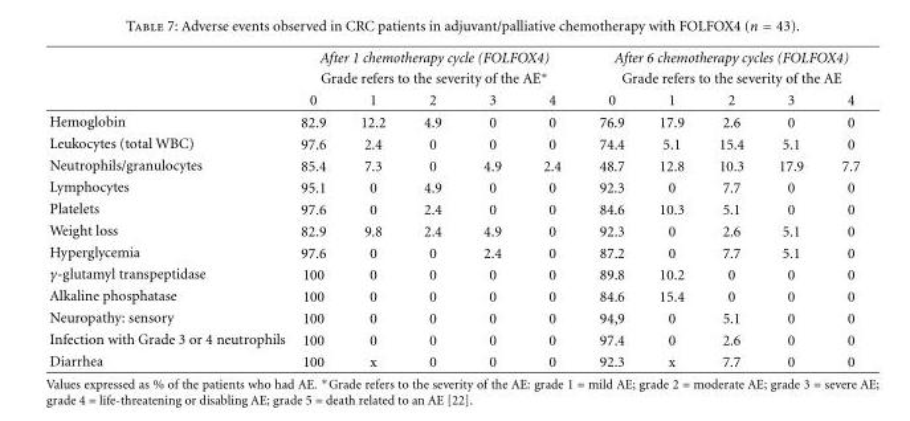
<table><thead><tr><td rowspan="3"></td><td rowspan="2" colspan="5">After 1 chemotherapy cycle (FOLFOX4) Grade refers to the severity of the AE∗</td><td rowspan="2" colspan="5">After 6 chemotherapy cycles (FOLFOX4) Grade refers to the severity of the AE</td></tr><tr></tr><tr><td>0</td><td>1</td><td>2</td><td>3</td><td>4</td><td>0</td><td>1</td><td>2</td><td>3</td><td>4</td></tr></thead><tbody><tr><td>Hemoglobin</td><td>82.9</td><td>12.2</td><td>4.9</td><td>0</td><td>0</td><td>76.9</td><td>17.9</td><td>2.6</td><td>0</td><td>0</td></tr><tr><td>Leukocytes (total WBC)</td><td>97.6</td><td>2.4</td><td>0</td><td>0</td><td>0</td><td>74.4</td><td>5.1</td><td>15.4</td><td>5.1</td><td>0</td></tr><tr><td>Neutrophils/granulocytes</td><td>85.4</td><td>7.3</td><td>0</td><td>4.9</td><td>2.4</td><td>48.7</td><td>12.8</td><td>10.3</td><td>17.9</td><td>7.7</td></tr><tr><td>Lymphocytes</td><td>95.1</td><td>0</td><td>4.9</td><td>0</td><td>0</td><td>92.3</td><td>0</td><td>7.7</td><td>0</td><td>0</td></tr><tr><td>Platelets</td><td>97.6</td><td>0</td><td>2.4</td><td>0</td><td>0</td><td>84.6</td><td>10.3</td><td>5.1</td><td>0</td><td>0</td></tr><tr><td>Weight loss</td><td>82.9</td><td>9.8</td><td>2.4</td><td>4.9</td><td>0</td><td>92.3</td><td>0</td><td>2.6</td><td>5.1</td><td>0</td></tr><tr><td>Hyperglycemia</td><td>97.6</td><td>0</td><td>0</td><td>2.4</td><td>0</td><td>87.2</td><td>0</td><td>7.7</td><td>5.1</td><td>0</td></tr><tr><td>γ-glutamyl transpeptidase</td><td>100</td><td>0</td><td>0</td><td>0</td><td>0</td><td>89.8</td><td>10.2</td><td>0</td><td>0</td><td>0</td></tr><tr><td>Alkaline phosphatase</td><td>100</td><td>0</td><td>0</td><td>0</td><td>0</td><td>84.6</td><td>15.4</td><td>0</td><td>0</td><td>0</td></tr><tr><td>Neuropathy: sensory</td><td>100</td><td>0</td><td>0</td><td>0</td><td>0</td><td>94,9</td><td>0</td><td>5.1</td><td>0</td><td>0</td></tr><tr><td>Infection with Grade 3 or 4 neutrophils</td><td>100</td><td>0</td><td>0</td><td>0</td><td>0</td><td>97.4</td><td>0</td><td>2.6</td><td>0</td><td>0</td></tr><tr><td>Diarrhea</td><td>100</td><td>x</td><td>0</td><td>0</td><td>0</td><td>92.3</td><td>x</td><td>7.7</td><td>0</td><td>0</td></tr></tbody></table>